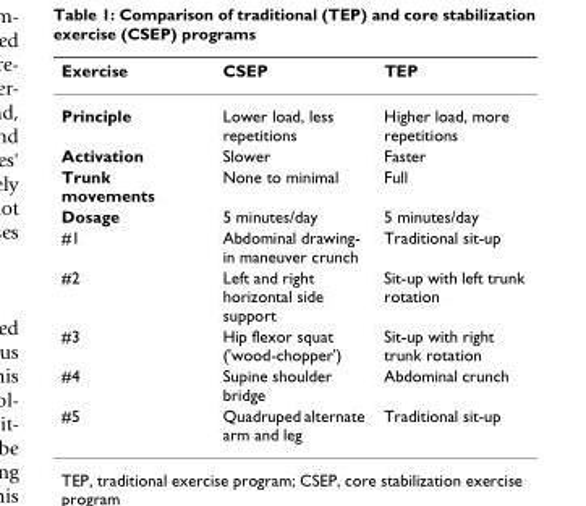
<table><thead><tr><td>Exercise</td><td>CSEP</td><td>TEP</td></tr></thead><tbody><tr><td>Principle</td><td>Lower load, less repetitions</td><td>Higher load, more repetitions</td></tr><tr><td>Activation</td><td>Slower</td><td>Faster</td></tr><tr><td>Trunk movements</td><td>None to minimal</td><td>Full</td></tr><tr><td>Dosage</td><td>5 minutes/day</td><td>5 minutes/day</td></tr><tr><td>#1</td><td>Abdominal drawing- in maneuver crunch</td><td>Traditional sit-up</td></tr><tr><td>#2</td><td>Left and right horizontal side support</td><td>Sit-up with left trunk rotation</td></tr><tr><td>#3</td><td>Hip flexor squat (&#x27;wood-chopper&#x27;)</td><td>Sit-up with right trunk rotation</td></tr><tr><td>#4</td><td>Supine shoulder bridge</td><td>Abdominal crunch</td></tr><tr><td>#5</td><td>Quadruped alternate arm and leg</td><td>Traditional sit-up</td></tr></tbody></table>